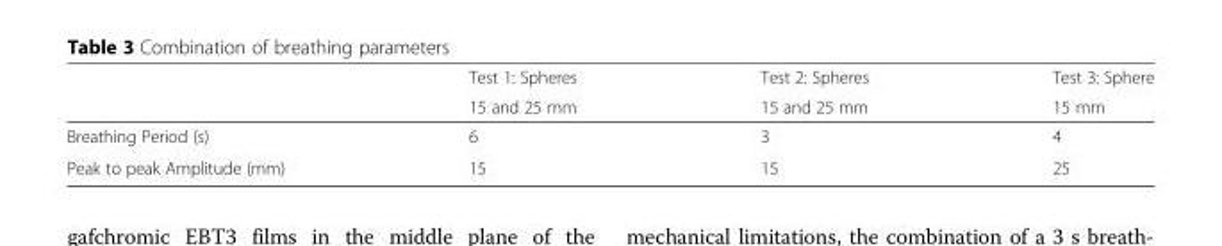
<table><thead><tr><td rowspan="2"></td><td rowspan="2">Test 1: Spheres 15 and 25 mm</td><td rowspan="2">Test 2: Spheres 15 and 25 mm</td><td rowspan="2">Test 3: Sphere 15 mm</td></tr><tr></tr></thead><tbody><tr><td>Breathing Period (s)</td><td>6</td><td>3</td><td>4</td></tr><tr><td>Peak to peak Amplitude (mm)</td><td>15</td><td>15</td><td>25</td></tr></tbody></table>